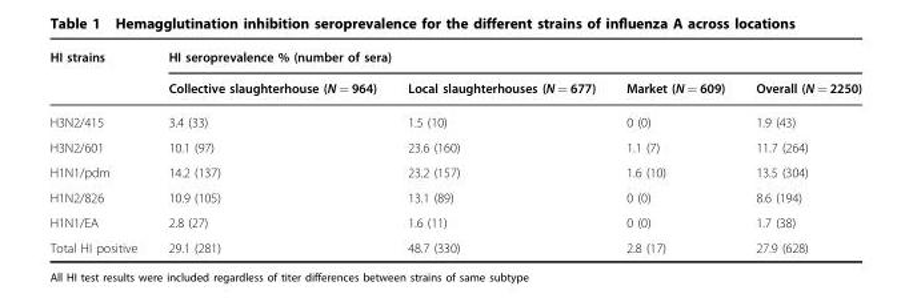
<table><thead><tr><td rowspan="2">HI strains</td><td colspan="4">HI seroprevalence % (number of sera)</td></tr><tr><td>Collective slaughterhouse (N = 964)</td><td>Local slaughterhouses (N = 677)</td><td>Market (N = 609)</td><td>Overall (N = 2250)</td></tr></thead><tbody><tr><td>H3N2/415</td><td>3.4 (33)</td><td>1.5 (10)</td><td>0 (0)</td><td>1.9 (43)</td></tr><tr><td>H3N2/601</td><td>10.1 (97)</td><td>23.6 (160)</td><td>1.1 (7)</td><td>11.7 (264)</td></tr><tr><td>H1N1/pdm</td><td>14.2 (137)</td><td>23.2 (157)</td><td>1.6 (10)</td><td>13.5 (304)</td></tr><tr><td>H1N2/826</td><td>10.9 (105)</td><td>13.1 (89)</td><td>0 (0)</td><td>8.6 (194)</td></tr><tr><td>H1N1/EA</td><td>2.8 (27)</td><td>1.6 (11)</td><td>0 (0)</td><td>1.7 (38)</td></tr><tr><td>Total HI positive</td><td>29.1 (281)</td><td>48.7 (330)</td><td>2.8 (17)</td><td>27.9 (628)</td></tr></tbody></table>